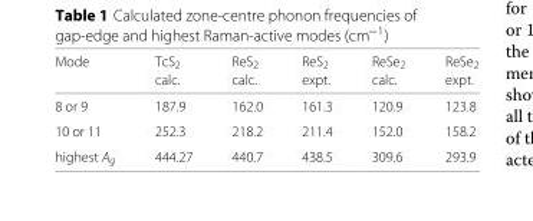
<table><thead><tr><td rowspan="2">Mode</td><td rowspan="2">TcS<sub>2</sub> calc.</td><td rowspan="2">ReS<sub>2</sub> calc.</td><td rowspan="2">ReS<sub>2</sub> expt.</td><td rowspan="2">ReSe<sub>2</sub> calc.</td><td rowspan="2">ReSe<sub>2</sub> expt.</td></tr><tr></tr></thead><tbody><tr><td>8 or 9</td><td>187.9</td><td>162.0</td><td>161.3</td><td>120.9</td><td>123.8</td></tr><tr><td>10 or 11</td><td>252.3</td><td>218.2</td><td>211.4</td><td>152.0</td><td>158.2</td></tr><tr><td>highest A<sub>g</sub></td><td>444.27</td><td>440.7</td><td>438.5</td><td>309.6</td><td>293.9</td></tr></tbody></table>